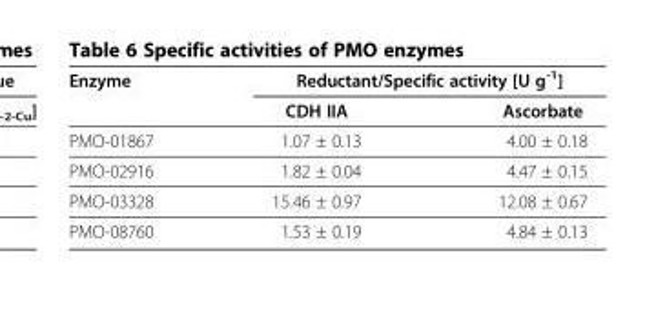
<table><thead><tr><td rowspan="2">Enzyme</td><td colspan="2">Reductant/Specific activity [U g<sup>-1</sup>]</td></tr><tr><td>CDH IIA</td><td>Ascorbate</td></tr></thead><tbody><tr><td>PMO-01867</td><td>1.07 ± 0.13</td><td>4.00 ± 0.18</td></tr><tr><td>PMO-02916</td><td>1.82 ± 0.04</td><td>4.47 ± 0.15</td></tr><tr><td>PMO-03328</td><td>15.46 ± 0.97</td><td>12.08 ± 0.67</td></tr><tr><td>PMO-08760</td><td>1.53 ± 0.19</td><td>4.84 ± 0.13</td></tr></tbody></table>